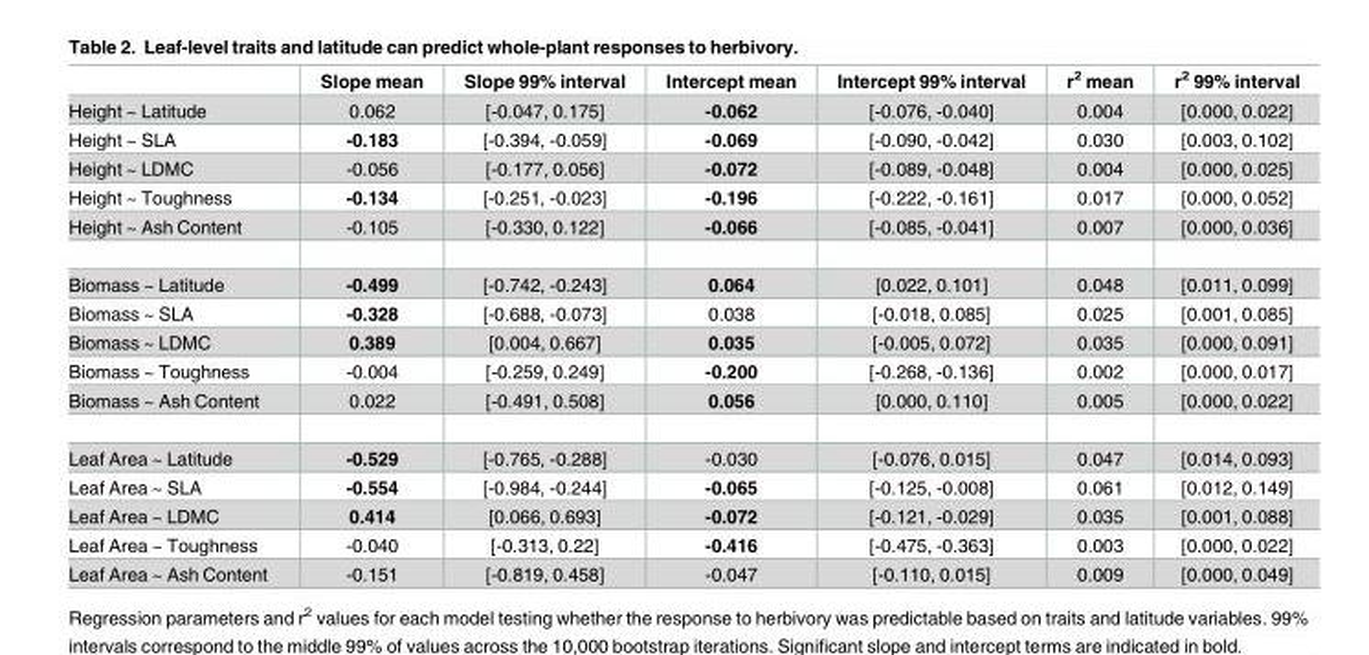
<table><thead><tr><td></td><td>Slope mean</td><td>Slope 99% interval</td><td>Intercept mean</td><td>Intercept 99% interval</td><td>r<sup>2</sup> mean</td><td>r<sup>2</sup> 99% interval</td></tr></thead><tbody><tr><td>Height ~ Latitude</td><td>0.062</td><td>[-0.047, 0.175]</td><td>-0.062</td><td>[-0.076, -0.040]</td><td>0.004</td><td>[0.000, 0.022]</td></tr><tr><td>Height ~ SLA</td><td>-0.183</td><td>[-0.394, -0.059]</td><td>-0.069</td><td>[-0.090, -0.042]</td><td>0.030</td><td>[0.003, 0.102]</td></tr><tr><td>Height ~ LDMC</td><td>-0.056</td><td>[-0.177, 0.056]</td><td>-0.072</td><td>[-0.089, -0.048]</td><td>0.004</td><td>[0.000, 0.025]</td></tr><tr><td>Height ~ Toughness</td><td>-0.134</td><td>[-0.251, -0.023]</td><td>-0.196</td><td>[-0.222, -0.161]</td><td>0.017</td><td>[0.000, 0.052]</td></tr><tr><td>Height ~ Ash Content</td><td>-0.105</td><td>[-0.330, 0.122]</td><td>-0.066</td><td>[-0.085, -0.041]</td><td>0.007</td><td>[0.000, 0.036]</td></tr><tr><td>Biomass ~ Latitude</td><td>-0.499</td><td>[-0.742, -0.243]</td><td>0.064</td><td>[0.022, 0.101]</td><td>0.048</td><td>[0.011, 0.099]</td></tr><tr><td>Biomass ~ SLA</td><td>-0.328</td><td>[-0.688, -0.073]</td><td>0.038</td><td>[-0.018, 0.085]</td><td>0.025</td><td>[0.001, 0.085]</td></tr><tr><td>Biomass ~ LDMC</td><td>0.389</td><td>[0.004, 0.667]</td><td>0.035</td><td>[-0.005, 0.072]</td><td>0.035</td><td>[0.000, 0.091]</td></tr><tr><td>Biomass ~ Toughness</td><td>-0.004</td><td>[-0.259, 0.249]</td><td>-0.200</td><td>[-0.268, -0.136]</td><td>0.002</td><td>[0.000, 0.017]</td></tr><tr><td>Biomass ~ Ash Content</td><td>0.022</td><td>[-0.491, 0.508]</td><td>0.056</td><td>[0.000, 0.110]</td><td>0.005</td><td>[0.000, 0.022]</td></tr><tr><td>Leaf Area ~ Latitude</td><td>-0.529</td><td>[-0.765, -0.288]</td><td>-0.030</td><td>[-0.076, 0.015]</td><td>0.047</td><td>[0.014, 0.093]</td></tr><tr><td>Leaf Area ~ SLA</td><td>-0.554</td><td>[-0.984, -0.244]</td><td>-0.065</td><td>[-0.125, -0.008]</td><td>0.061</td><td>[0.012, 0.149]</td></tr><tr><td>Leaf Area ~ LDMC</td><td>0.414</td><td>[0.066, 0.693]</td><td>-0.072</td><td>[-0.121, -0.029]</td><td>0.035</td><td>[0.001, 0.088]</td></tr><tr><td>Leaf Area ~ Toughness</td><td>-0.040</td><td>[-0.313, 0.22]</td><td>-0.416</td><td>[-0.475, -0.363]</td><td>0.003</td><td>[0.000, 0.022]</td></tr><tr><td>Leaf Area ~ Ash Content</td><td>-0.151</td><td>[-0.819, 0.458]</td><td>-0.047</td><td>[-0.110, 0.015]</td><td>0.009</td><td>[0.000, 0.049]</td></tr></tbody></table>